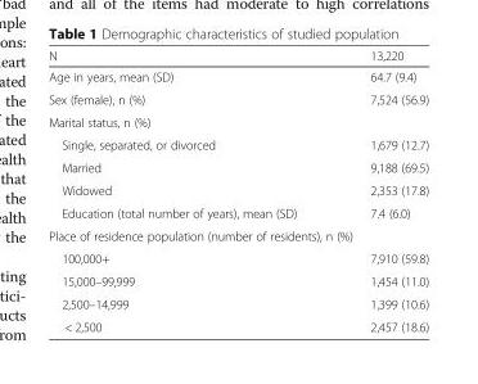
<table><thead><tr><td>N</td><td>13,220</td></tr></thead><tbody><tr><td>Age in years, mean (SD)</td><td>64.7 (9.4)</td></tr><tr><td>Sex (female), n (%)</td><td>7,524 (56.9)</td></tr><tr><td colspan="2">Marital status, n (%)</td></tr><tr><td>Single, separated, or divorced</td><td>1,679 (12.7)</td></tr><tr><td>Married</td><td>9,188 (69.5)</td></tr><tr><td>Widowed</td><td>2,353 (17.8)</td></tr><tr><td>Education (total number of years), mean (SD)</td><td>7.4 (6.0)</td></tr><tr><td colspan="2">Place of residence population (number of residents), n (%)</td></tr><tr><td>100,000+</td><td>7,910 (59.8)</td></tr><tr><td>15,000–99,999</td><td>1,454 (11.0)</td></tr><tr><td>2,500–14,999</td><td>1,399 (10.6)</td></tr><tr><td>&lt; 2,500</td><td>2,457 (18.6)</td></tr></tbody></table>